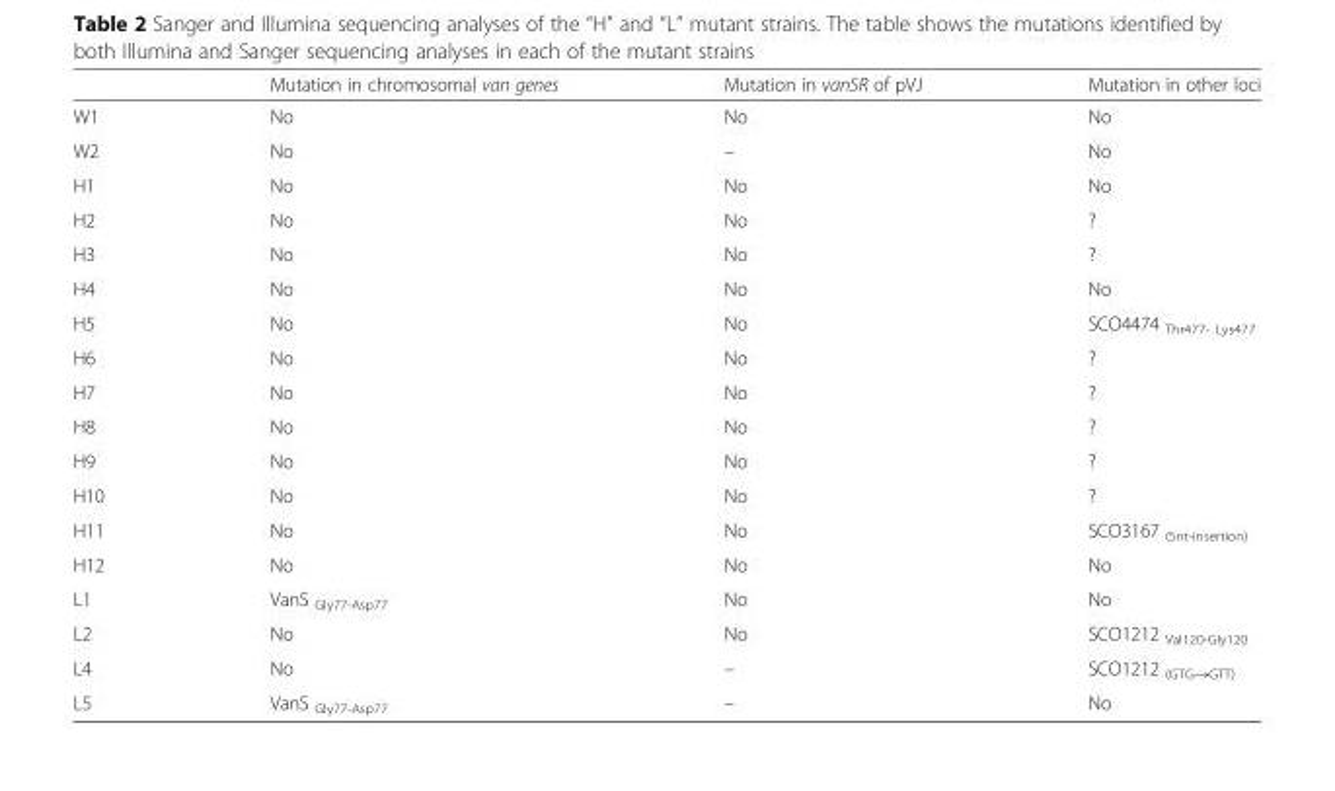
<table><thead><tr><td></td><td>Mutation in chromosomal van genes</td><td>Mutation in vanSR of pVJ</td><td>Mutation in other loci</td></tr></thead><tbody><tr><td>W1</td><td>No</td><td>No</td><td>No</td></tr><tr><td>W2</td><td>No</td><td>–</td><td>No</td></tr><tr><td>H1</td><td>No</td><td>No</td><td>No</td></tr><tr><td>H2</td><td>No</td><td>No</td><td>?</td></tr><tr><td>H3</td><td>No</td><td>No</td><td>?</td></tr><tr><td>H4</td><td>No</td><td>No</td><td>No</td></tr><tr><td>H5</td><td>No</td><td>No</td><td>SCO4474 <sub>Thr477- Lys477</sub></td></tr><tr><td>H6</td><td>No</td><td>No</td><td>?</td></tr><tr><td>H7</td><td>No</td><td>No</td><td>?</td></tr><tr><td>H8</td><td>No</td><td>No</td><td>?</td></tr><tr><td>H9</td><td>No</td><td>No</td><td>?</td></tr><tr><td>H10</td><td>No</td><td>No</td><td>?</td></tr><tr><td>H11</td><td>No</td><td>No</td><td>SCO3167 <sub>(5nt-insertion)</sub></td></tr><tr><td>H12</td><td>No</td><td>No</td><td>No</td></tr><tr><td>L1</td><td>VanS <sub>Gly77-Asp77</sub></td><td>No</td><td>No</td></tr><tr><td>L2</td><td>No</td><td>No</td><td>SCO1212 <sub>Val120-Gly120</sub></td></tr><tr><td>L4</td><td>No</td><td>–</td><td>SCO1212 <sub>(GTG→GTT)</sub></td></tr><tr><td>L5</td><td>VanS <sub>Gly77-Asp77</sub></td><td>–</td><td>No</td></tr></tbody></table>